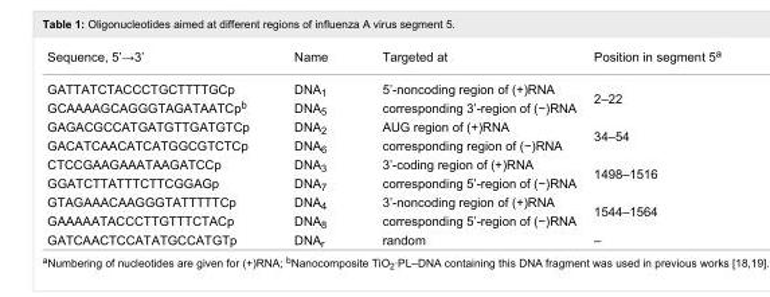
<table><tbody><tr><td>Sequence, 5’→3’</td><td>Name</td><td>Targeted at</td><td>Position in segment 5<sup>a</sup></td></tr><tr><td>GATTATCTACCCTGCTTTTGCp</td><td>DNA<sub>1</sub></td><td>5’-noncoding region of (+)RNA</td><td rowspan="2">2–22</td></tr><tr><td>GCAAAAGCAGGGTAGATAATCp<sup>b</sup></td><td>DNA<sub>5</sub></td><td>corresponding 3’-region of (−)RNA</td></tr><tr><td>GAGACGCCATGATGTTGATGTCp</td><td>DNA<sub>2</sub></td><td>AUG region of (+)RNA</td><td rowspan="2">34–54</td></tr><tr><td>GACATCAACATCATGGCGTCTCp</td><td>DNA<sub>6</sub></td><td>corresponding region of (−)RNA</td></tr><tr><td>CTCCGAAGAAATAAGATCCp</td><td>DNA<sub>3</sub></td><td>3’-coding region of (+)RNA</td><td rowspan="2">1498–1516</td></tr><tr><td>GGATCTTATTTCTTCGGAGp</td><td>DNA<sub>7</sub></td><td>corresponding 5’-region of (−)RNA</td></tr><tr><td>GTAGAAACAAGGGTATTTTTCp</td><td>DNA<sub>4</sub></td><td>3’-noncoding region of (+)RNA</td><td rowspan="2">1544–1564</td></tr><tr><td>GAAAAATACCCTTGTTTCTACp</td><td>DNA<sub>8</sub></td><td>corresponding 5’-region of (−)RNA</td></tr><tr><td>GATCAACTCCATATGCCATGTp</td><td>DNA<sub>r</sub></td><td>random</td><td>–</td></tr></tbody></table>